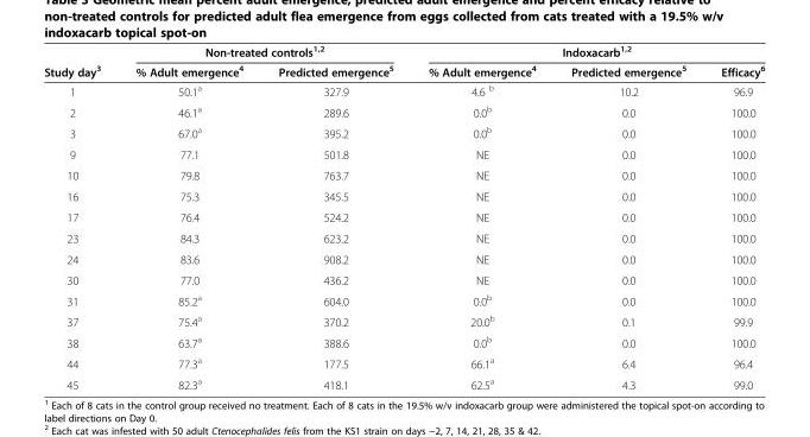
<table><thead><tr><td rowspan="2">Study day<sup>3</sup></td><td colspan="2">Non-treated controls<sup>1,2</sup></td><td colspan="3">Indoxacarb<sup>1,2</sup></td></tr><tr><td>% Adult emergence<sup>4</sup></td><td>Predicted emergence<sup>5</sup></td><td>% Adult emergence<sup>4</sup></td><td>Predicted emergence<sup>5</sup></td><td>Efficacy<sup>6</sup></td></tr></thead><tbody><tr><td>1</td><td>50.1<sup>a</sup></td><td>327.9</td><td>4.6 <sup>b</sup></td><td>10.2</td><td>96.9</td></tr><tr><td>2</td><td>46.1<sup>a</sup></td><td>289.6</td><td>0.0<sup>b</sup></td><td>0.0</td><td>100.0</td></tr><tr><td>3</td><td>67.0<sup>a</sup></td><td>395.2</td><td>0.0<sup>b</sup></td><td>0.0</td><td>100.0</td></tr><tr><td>9</td><td>77.1</td><td>501.8</td><td>NE</td><td>0.0</td><td>100.0</td></tr><tr><td>10</td><td>79.8</td><td>763.7</td><td>NE</td><td>0.0</td><td>100.0</td></tr><tr><td>16</td><td>75.3</td><td>345.5</td><td>NE</td><td>0.0</td><td>100.0</td></tr><tr><td>17</td><td>76.4</td><td>524.2</td><td>NE</td><td>0.0</td><td>100.0</td></tr><tr><td>23</td><td>84.3</td><td>623.2</td><td>NE</td><td>0.0</td><td>100.0</td></tr><tr><td>24</td><td>83.6</td><td>908.2</td><td>NE</td><td>0.0</td><td>100.0</td></tr><tr><td>30</td><td>77.0</td><td>436.2</td><td>NE</td><td>0.0</td><td>100.0</td></tr><tr><td>31</td><td>85.2<sup>a</sup></td><td>604.0</td><td>0.0<sup>b</sup></td><td>0.0</td><td>100.0</td></tr><tr><td>37</td><td>75.4<sup>a</sup></td><td>370.2</td><td>20.0<sup>b</sup></td><td>0.1</td><td>99.9</td></tr><tr><td>38</td><td>63.7<sup>a</sup></td><td>388.6</td><td>0.0<sup>b</sup></td><td>0.0</td><td>100.0</td></tr><tr><td>44</td><td>77.3<sup>a</sup></td><td>177.5</td><td>66.1<sup>a</sup></td><td>6.4</td><td>96.4</td></tr><tr><td>45</td><td>82.3<sup>a</sup></td><td>418.1</td><td>62.5<sup>a</sup></td><td>4.3</td><td>99.0</td></tr></tbody></table>